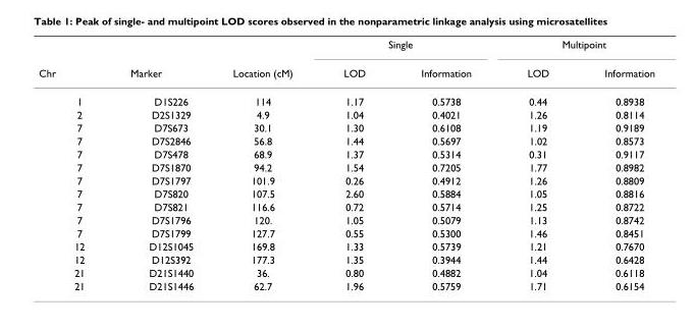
<table><thead><tr><td rowspan="2">Chr</td><td rowspan="2">Marker</td><td rowspan="2">Location (cM)</td><td colspan="2">Single</td><td colspan="2">Multipoint</td></tr><tr><td>LOD</td><td>Information</td><td>LOD</td><td>Information</td></tr></thead><tbody><tr><td>1</td><td>D1S226</td><td>114</td><td>1.17</td><td>0.5738</td><td>0.44</td><td>0.8938</td></tr><tr><td>2</td><td>D2S1329</td><td>4.9</td><td>1.04</td><td>0.4021</td><td>1.26</td><td>0.8114</td></tr><tr><td>7</td><td>D7S673</td><td>30.1</td><td>1.30</td><td>0.6108</td><td>1.19</td><td>0.9189</td></tr><tr><td>7</td><td>D7S2846</td><td>56.8</td><td>1.44</td><td>0.5697</td><td>1.02</td><td>0.8573</td></tr><tr><td>7</td><td>D7S478</td><td>68.9</td><td>1.37</td><td>0.5314</td><td>0.31</td><td>0.9117</td></tr><tr><td>7</td><td>D7S1870</td><td>94.2</td><td>1.54</td><td>0.7205</td><td>1.77</td><td>0.8982</td></tr><tr><td>7</td><td>D7S1797</td><td>101.9</td><td>0.26</td><td>0.4912</td><td>1.26</td><td>0.8809</td></tr><tr><td>7</td><td>D7S820</td><td>107.5</td><td>2.60</td><td>0.5884</td><td>1.05</td><td>0.8816</td></tr><tr><td>7</td><td>D7S821</td><td>116.6</td><td>0.72</td><td>0.5714</td><td>1.25</td><td>0.8722</td></tr><tr><td>7</td><td>D7S1796</td><td>120.</td><td>1.05</td><td>0.5079</td><td>1.13</td><td>0.8742</td></tr><tr><td>7</td><td>D7S1799</td><td>127.7</td><td>0.55</td><td>0.5300</td><td>1.46</td><td>0.8451</td></tr><tr><td>12</td><td>D12S1045</td><td>169.8</td><td>1.33</td><td>0.5739</td><td>1.21</td><td>0.7670</td></tr><tr><td>12</td><td>D12S392</td><td>177.3</td><td>1.35</td><td>0.3944</td><td>1.44</td><td>0.6428</td></tr><tr><td>21</td><td>D21S1440</td><td>36.</td><td>0.80</td><td>0.4882</td><td>1.04</td><td>0.6118</td></tr><tr><td>21</td><td>D21S1446</td><td>62.7</td><td>1.96</td><td>0.5759</td><td>1.71</td><td>0.6154</td></tr></tbody></table>